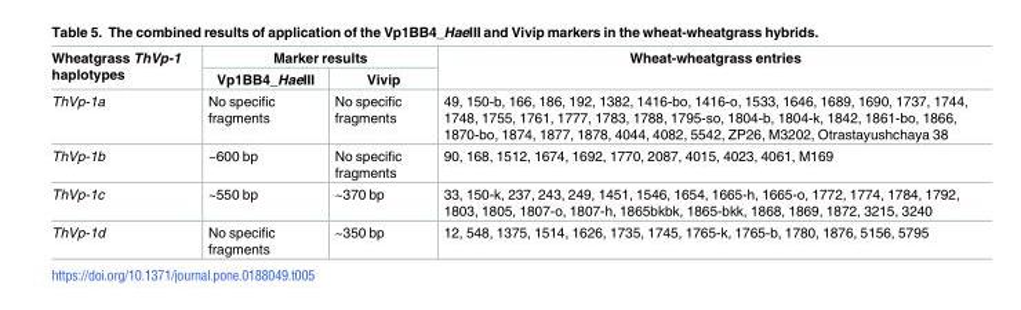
<table><thead><tr><td rowspan="2">Wheatgrass ThVp-1 haplotypes</td><td colspan="2">Marker results</td><td rowspan="2">Wheat-wheatgrass entries</td></tr><tr><td>Vp1BB4_HaeIII</td><td>Vivip</td></tr></thead><tbody><tr><td>ThVp-1a</td><td>No specific fragments</td><td>No specific fragments</td><td>49, 150-b, 166, 186, 192, 1382, 1416-bo, 1416-o, 1533, 1646, 1689, 1690, 1737, 1744, 1748, 1755, 1761, 1777, 1783, 1788, 1795-so, 1804-b, 1804-k, 1842, 1861-bo, 1866, 1870-bo, 1874, 1877, 1878, 4044, 4082, 5542, ZP26, M3202, Otrastayushchaya 38</td></tr><tr><td>ThVp-1b</td><td>~600 bp</td><td>No specific fragments</td><td>90, 168, 1512, 1674, 1692, 1770, 2087, 4015, 4023, 4061, M169</td></tr><tr><td>ThVp-1c</td><td>~550 bp</td><td>~370 bp</td><td>33, 150-k, 237, 243, 249, 1451, 1546, 1654, 1665-h, 1665-o, 1772, 1774, 1784, 1792, 1803, 1805, 1807-o, 1807-h, 1865bkbk, 1865-bkk, 1868, 1869, 1872, 3215, 3240</td></tr><tr><td>ThVp-1d</td><td>No specific fragments</td><td>~350 bp</td><td>12, 548, 1375, 1514, 1626, 1735, 1745, 1765-k, 1765-b, 1780, 1876, 5156, 5795</td></tr></tbody></table>